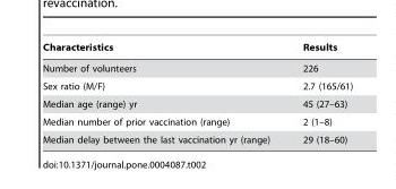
<table><thead><tr><td>Characteristics</td><td>Results</td></tr></thead><tbody><tr><td>Number of volunteers</td><td>226</td></tr><tr><td>Sex ratio (M/F)</td><td>2.7 (165/61)</td></tr><tr><td>Median age (range) yr</td><td>45 (27–63)</td></tr><tr><td>Median number of prior vaccination (range)</td><td>2 (1–8)</td></tr><tr><td>Median delay between the last vaccination yr (range)</td><td>29 (18–60)</td></tr></tbody></table>